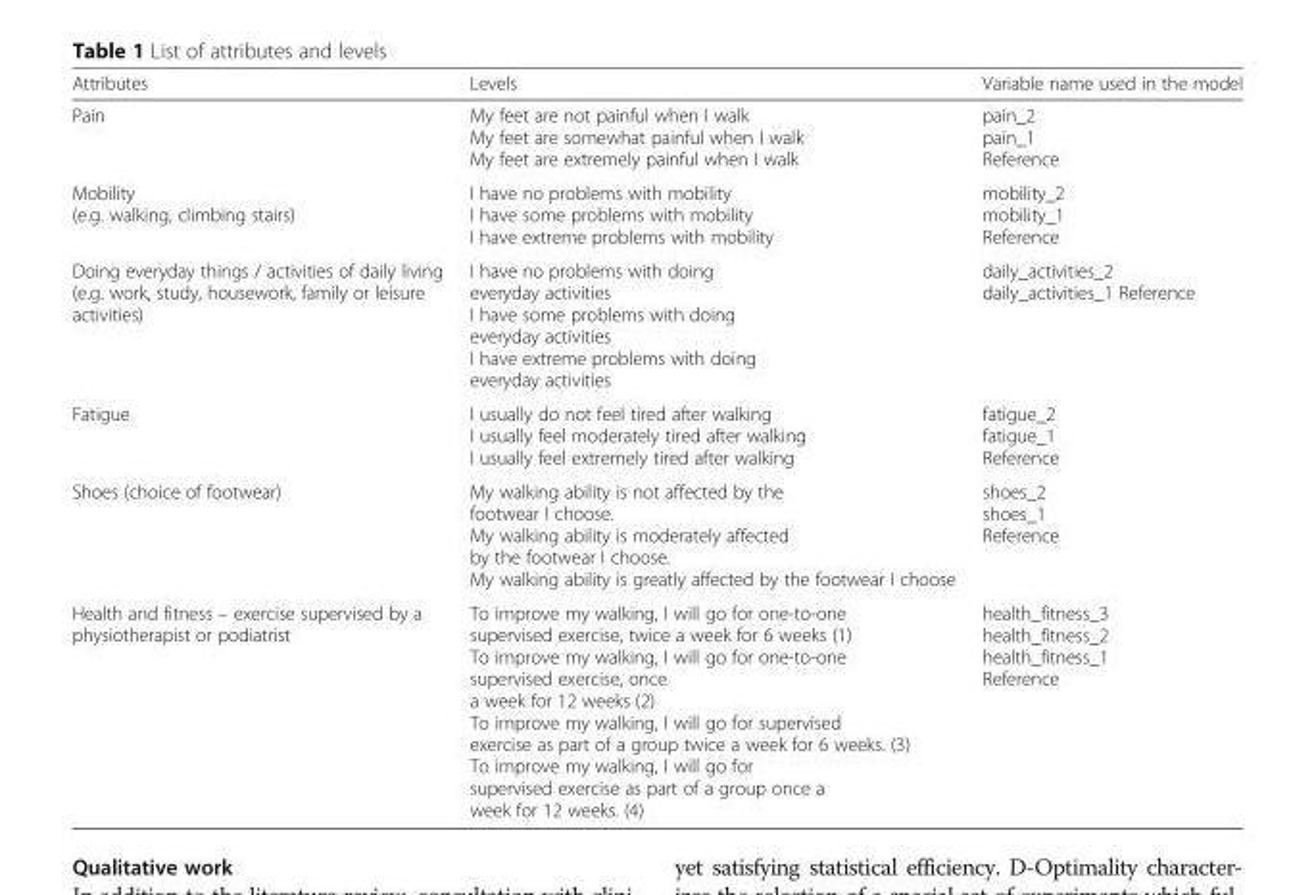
<table><thead><tr><td>Attributes</td><td>Levels</td><td>Variable name used in the model</td></tr></thead><tbody><tr><td>Pain</td><td>My feet are not painful when I walk My feet are somewhat painful when I walk My feet are extremely painful when I walk</td><td>pain_2 pain_1 Reference</td></tr><tr><td>Mobility (e.g. walking, climbing stairs)</td><td>I have no problems with mobility I have some problems with mobility I have extreme problems with mobility</td><td>mobility_2 mobility_1 Reference</td></tr><tr><td>Doing everyday things / activities of daily living (e.g. work, study, housework, family or leisure activities)</td><td>I have no problems with doing everyday activities I have some problems with doing everyday activities I have extreme problems with doing everyday activities</td><td>daily_activities_2 daily_activities_1 Reference</td></tr><tr><td>Fatigue</td><td>I usually do not feel tired after walking I usually feel moderately tired after walking I usually feel extremely tired after walking</td><td>fatigue_2 fatigue_1 Reference</td></tr><tr><td>Shoes (choice of footwear)</td><td>My walking ability is not affected by the footwear I choose. My walking ability is moderately affected by the footwear I choose. My walking ability is greatly affected by the footwear I choose</td><td>shoes_2 shoes_1 Reference</td></tr><tr><td>Health and fitness – exercise supervised by a physiotherapist or podiatrist</td><td>To improve my walking, I will go for one-to-one supervised exercise, twice a week for 6 weeks (1) To improve my walking, I will go for one-to-one supervised exercise, once a week for 12 weeks (2) To improve my walking, I will go for supervised exercise as part of a group twice a week for 6 weeks. (3) To improve my walking, I will go for supervised exercise as part of a group once a week for 12 weeks. (4)</td><td>health_fitness_3 health_fitness_2 health_fitness_1 Reference</td></tr></tbody></table>